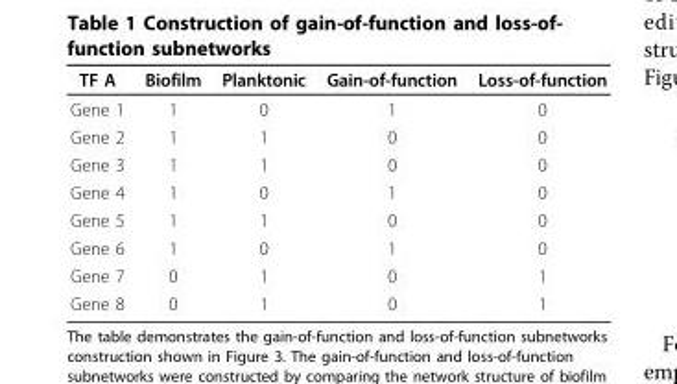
<table><thead><tr><td>TF A</td><td>Biofilm</td><td>Planktonic</td><td>Gain-of-function</td><td>Loss-of-function</td></tr></thead><tbody><tr><td>Gene 1</td><td>1</td><td>0</td><td>1</td><td>0</td></tr><tr><td>Gene 2</td><td>1</td><td>1</td><td>0</td><td>0</td></tr><tr><td>Gene 3</td><td>1</td><td>1</td><td>0</td><td>0</td></tr><tr><td>Gene 4</td><td>1</td><td>0</td><td>1</td><td>0</td></tr><tr><td>Gene 5</td><td>1</td><td>1</td><td>0</td><td>0</td></tr><tr><td>Gene 6</td><td>1</td><td>0</td><td>1</td><td>0</td></tr><tr><td>Gene 7</td><td>0</td><td>1</td><td>0</td><td>1</td></tr><tr><td>Gene 8</td><td>0</td><td>1</td><td>0</td><td>1</td></tr></tbody></table>